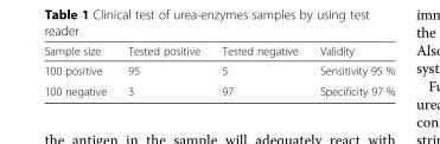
<table><thead><tr><td>Sample size</td><td>Tested positive</td><td>Tested negative</td><td>Validity</td></tr></thead><tbody><tr><td>100 positive</td><td>95</td><td>5</td><td>Sensitivity 95 %</td></tr><tr><td>100 negative</td><td>3</td><td>97</td><td>Specificity 97 %</td></tr></tbody></table>